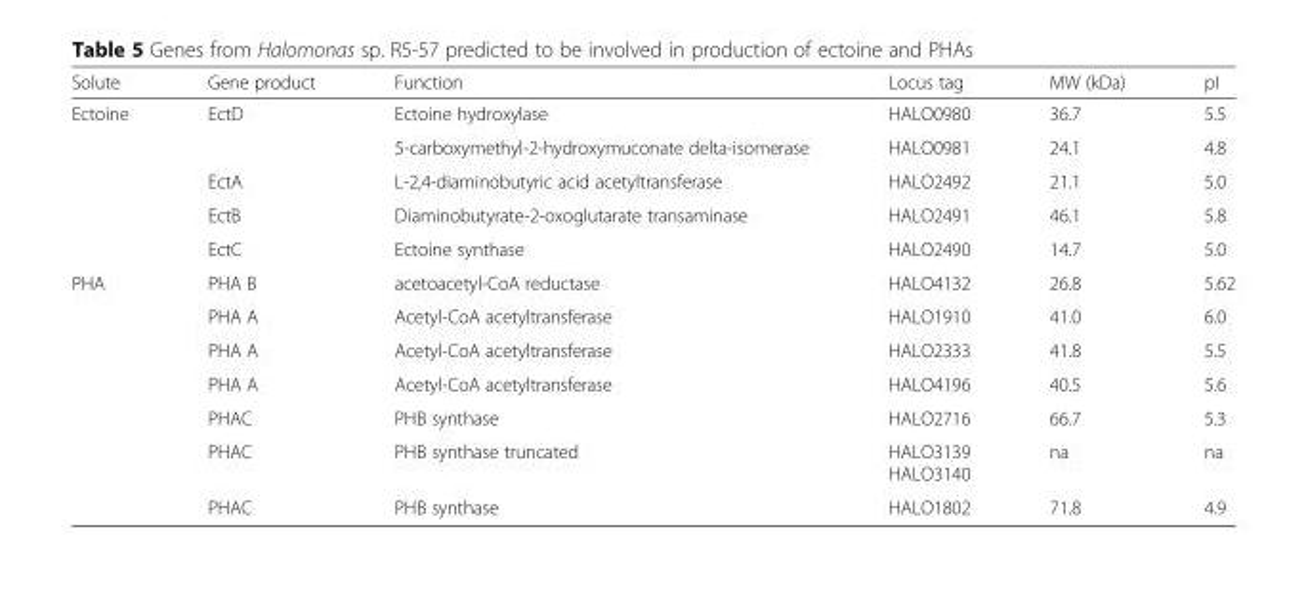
<table><thead><tr><td>Solute</td><td>Gene product</td><td>Function</td><td>Locus tag</td><td>MW (kDa)</td><td>pI</td></tr></thead><tbody><tr><td rowspan="5">Ectoine</td><td>EctD</td><td>Ectoine hydroxylase</td><td>HALO0980</td><td>36.7</td><td>5.5</td></tr><tr><td></td><td>5-carboxymethyl-2-hydroxymuconate delta-isomerase</td><td>HALO0981</td><td>24.1</td><td>4.8</td></tr><tr><td>EctA</td><td>L-2,4-diaminobutyric acid acetyltransferase</td><td>HALO2492</td><td>21.1</td><td>5.0</td></tr><tr><td>EctB</td><td>Diaminobutyrate-2-oxoglutarate transaminase</td><td>HALO2491</td><td>46.1</td><td>5.8</td></tr><tr><td>EctC</td><td>Ectoine synthase</td><td>HALO2490</td><td>14.7</td><td>5.0</td></tr><tr><td rowspan="7">PHA</td><td>PHA B</td><td>acetoacetyl-CoA reductase</td><td>HALO4132</td><td>26.8</td><td>5.62</td></tr><tr><td>PHA A</td><td>Acetyl-CoA acetyltransferase</td><td>HALO1910</td><td>41.0</td><td>6.0</td></tr><tr><td>PHA A</td><td>Acetyl-CoA acetyltransferase</td><td>HALO2333</td><td>41.8</td><td>5.5</td></tr><tr><td>PHA A</td><td>Acetyl-CoA acetyltransferase</td><td>HALO4196</td><td>40.5</td><td>5.6</td></tr><tr><td>PHAC</td><td>PHB synthase</td><td>HALO2716</td><td>66.7</td><td>5.3</td></tr><tr><td>PHAC</td><td>PHB synthase truncated</td><td>HALO3139 HALO3140</td><td>na</td><td>na</td></tr><tr><td>PHAC</td><td>PHB synthase</td><td>HALO1802</td><td>71.8</td><td>4.9</td></tr></tbody></table>